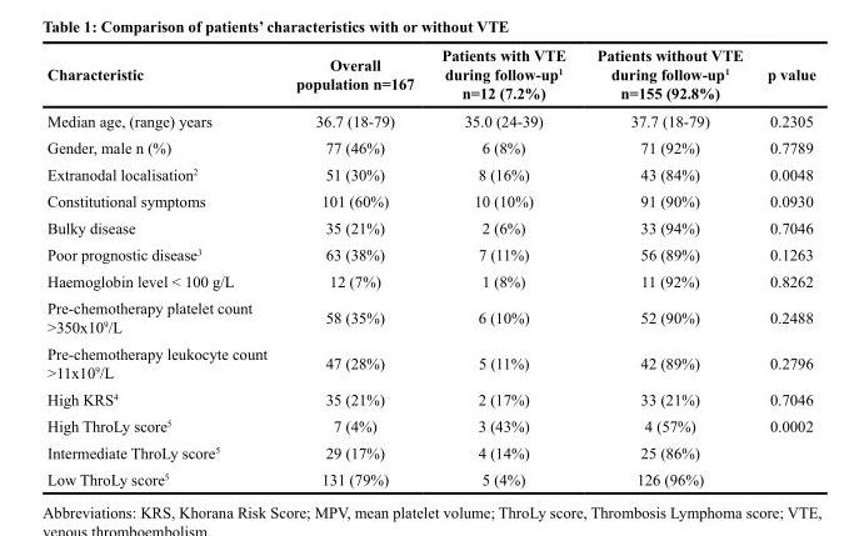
<table><thead><tr><td>Characteristic</td><td>Overall population n=167</td><td>Patients with VTE during follow-up<sup>1</sup> n=12 (7.2%)</td><td>Patients without VTE during follow-up<sup>1</sup> n=155 (92.8%)</td><td>p value</td></tr></thead><tbody><tr><td>Median age, (range) years</td><td>36.7 (18-79)</td><td>35.0 (24-39)</td><td>37.7 (18-79)</td><td>0.2305</td></tr><tr><td>Gender, male n (%)</td><td>77 (46%)</td><td>6 (8%)</td><td>71 (92%)</td><td>0.7789</td></tr><tr><td>Extranodal localisation<sup>2</sup></td><td>51 (30%)</td><td>8 (16%)</td><td>43 (84%)</td><td>0.0048</td></tr><tr><td>Constitutional symptoms</td><td>101 (60%)</td><td>10 (10%)</td><td>91 (90%)</td><td>0.0930</td></tr><tr><td>Bulky disease</td><td>35 (21%)</td><td>2 (6%)</td><td>33 (94%)</td><td>0.7046</td></tr><tr><td>Poor prognostic disease<sup>3</sup></td><td>63 (38%)</td><td>7 (11%)</td><td>56 (89%)</td><td>0.1263</td></tr><tr><td>Haemoglobin level &lt; 100 g/L</td><td>12 (7%)</td><td>1 (8%)</td><td>11 (92%)</td><td>0.8262</td></tr><tr><td>Pre-chemotherapy platelet count &gt;350x109/L</td><td>58 (35%)</td><td>6 (10%)</td><td>52 (90%)</td><td>0.2488</td></tr><tr><td>Pre-chemotherapy leukocyte count &gt;11x109/L</td><td>47 (28%)</td><td>5 (11%)</td><td>42 (89%)</td><td>0.2796</td></tr><tr><td>High KRS<sup>4</sup></td><td>35 (21%)</td><td>2 (17%)</td><td>33 (21%)</td><td>0.7046</td></tr><tr><td>High ThroLy score<sup>5</sup></td><td>7 (4%)</td><td>3 (43%)</td><td>4 (57%)</td><td>0.0002</td></tr><tr><td>Intermediate ThroLy score<sup>5</sup></td><td>29 (17%)</td><td>4 (14%)</td><td>25 (86%)</td><td></td></tr><tr><td>Low ThroLy score<sup>5</sup></td><td>131 (79%)</td><td>5 (4%)</td><td>126 (96%)</td><td></td></tr></tbody></table>